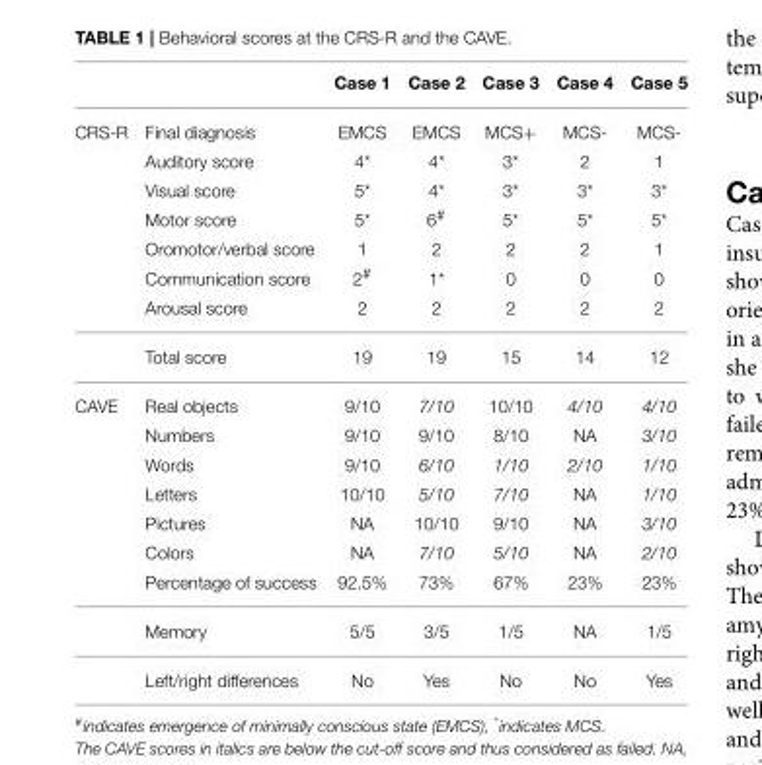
<table><thead><tr><td></td><td></td><td>Case 1</td><td>Case 2</td><td>Case 3</td><td>Case 4</td><td>Case 5</td></tr></thead><tbody><tr><td rowspan="8">CRS-R</td><td>Final diagnosis</td><td>EMCS</td><td>EMCS</td><td>MCS+</td><td>MCS-</td><td>MCS-</td></tr><tr><td>Auditory score</td><td>4*</td><td>4*</td><td>3*</td><td>2</td><td>1</td></tr><tr><td>Visual score</td><td>5*</td><td>4*</td><td>3*</td><td>3*</td><td>3*</td></tr><tr><td>Motor score</td><td>5*</td><td>6<sup>#</sup></td><td>5*</td><td>5*</td><td>5*</td></tr><tr><td>Oromotor/verbal score</td><td>1</td><td>2</td><td>2</td><td>2</td><td>1</td></tr><tr><td>Communication score</td><td>2<sup>#</sup></td><td>1*</td><td>0</td><td>0</td><td>0</td></tr><tr><td>Arousal score</td><td>2</td><td>2</td><td>2</td><td>2</td><td>2</td></tr><tr><td>Total score</td><td>19</td><td>19</td><td>15</td><td>14</td><td>12</td></tr><tr><td rowspan="9">CAVE</td><td>Real objects</td><td>9/10</td><td>7/10</td><td>10/10</td><td>4/10</td><td>4/10</td></tr><tr><td>Numbers</td><td>9/10</td><td>9/10</td><td>8/10</td><td>NA</td><td>3/10</td></tr><tr><td>Words</td><td>9/10</td><td>6/10</td><td>1/10</td><td>2/10</td><td>1/10</td></tr><tr><td>Letters</td><td>10/10</td><td>5/10</td><td>7/10</td><td>NA</td><td>1/10</td></tr><tr><td>Pictures</td><td>NA</td><td>10/10</td><td>9/10</td><td>NA</td><td>3/10</td></tr><tr><td>Colors</td><td>NA</td><td>7/10</td><td>5/10</td><td>NA</td><td>2/10</td></tr><tr><td>Percentage of success</td><td>92.5%</td><td>73%</td><td>67%</td><td>23%</td><td>23%</td></tr><tr><td>Memory</td><td>5/5</td><td>3/5</td><td>1/5</td><td>NA</td><td>1/5</td></tr><tr><td>Left/right differences</td><td>No</td><td>Yes</td><td>No</td><td>No</td><td>Yes</td></tr></tbody></table>